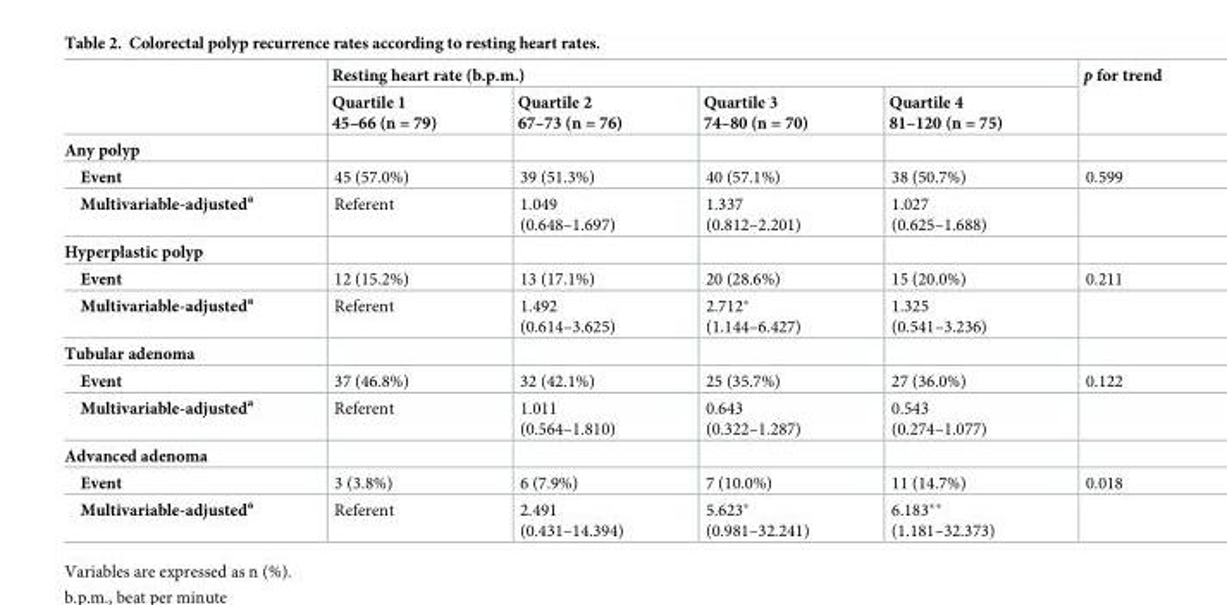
<table><thead><tr><td rowspan="2"></td><td colspan="4">Resting heart rate (b.p.m.)</td><td rowspan="2">p for trend</td></tr><tr><td>Quartile 1 45–66 (n = 79)</td><td>Quartile 2 67–73 (n = 76)</td><td>Quartile 3 74–80 (n = 70)</td><td>Quartile 4 81–120 (n = 75)</td></tr></thead><tbody><tr><td colspan="6">Any polyp</td></tr><tr><td>Event</td><td>45 (57.0%)</td><td>39 (51.3%)</td><td>40 (57.1%)</td><td>38 (50.7%)</td><td>0.599</td></tr><tr><td>Multivariable-adjusted<sup>a</sup></td><td>Referent</td><td>1.049 (0.648–1.697)</td><td>1.337 (0.812–2.201)</td><td>1.027 (0.625–1.688)</td><td></td></tr><tr><td colspan="6">Hyperplastic polyp</td></tr><tr><td>Event</td><td>12 (15.2%)</td><td>13 (17.1%)</td><td>20 (28.6%)</td><td>15 (20.0%)</td><td>0.211</td></tr><tr><td>Multivariable-adjusted<sup>a</sup></td><td>Referent</td><td>1.492 (0.614–3.625)</td><td>2.712* (1.144–6.427)</td><td>1.325 (0.541–3.236)</td><td></td></tr><tr><td colspan="6">Tubular adenoma</td></tr><tr><td>Event</td><td>37 (46.8%)</td><td>32 (42.1%)</td><td>25 (35.7%)</td><td>27 (36.0%)</td><td>0.122</td></tr><tr><td>Multivariable-adjusted<sup>a</sup></td><td>Referent</td><td>1.011 (0.564–1.810)</td><td>0.643 (0.322–1.287)</td><td>0.543 (0.274–1.077)</td><td></td></tr><tr><td colspan="6">Advanced adenoma</td></tr><tr><td>Event</td><td>3 (3.8%)</td><td>6 (7.9%)</td><td>7 (10.0%)</td><td>11 (14.7%)</td><td>0.018</td></tr><tr><td>Multivariable-adjusted<sup>a</sup></td><td>Referent</td><td>2.491 (0.431–14.394)</td><td>5.623* (0.981–32.241)</td><td>6.183** (1.181–32.373)</td><td></td></tr></tbody></table>